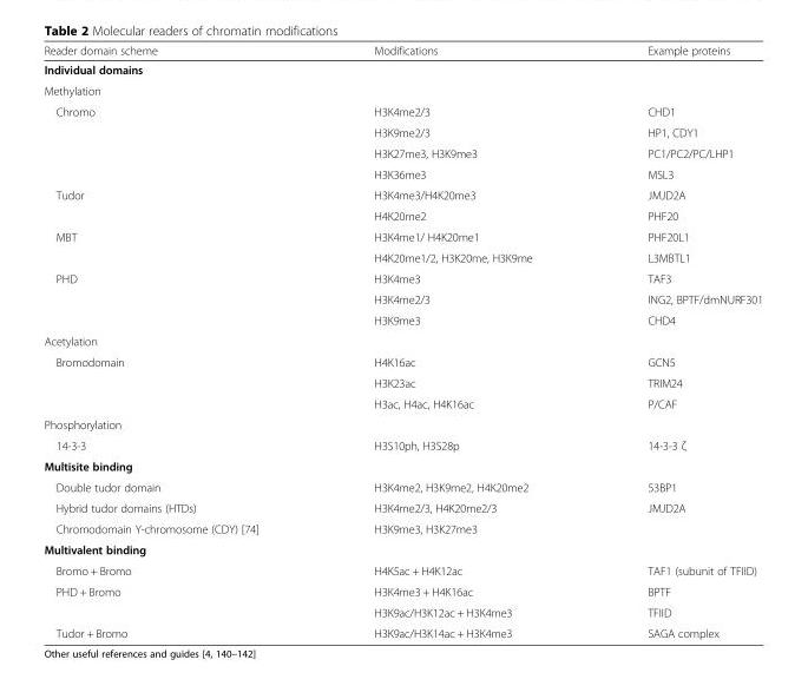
<table><thead><tr><td>Reader domain scheme</td><td>Modifications</td><td>Example proteins</td></tr></thead><tbody><tr><td colspan="3">Individual domains</td></tr><tr><td colspan="3">Methylation</td></tr><tr><td rowspan="4">Chromo</td><td>H3K4me2/3</td><td>CHD1</td></tr><tr><td>H3K9me2/3</td><td>HP1, CDY1</td></tr><tr><td>H3K27me3, H3K9me3</td><td>PC1/PC2/PC/LHP1</td></tr><tr><td>H3K36me3</td><td>MSL3</td></tr><tr><td rowspan="2">Tudor</td><td>H3K4me3/H4K20me3</td><td>JMJD2A</td></tr><tr><td>H4K20me2</td><td>PHF20</td></tr><tr><td rowspan="2">MBT</td><td>H3K4me1/ H4K20me1</td><td>PHF20L1</td></tr><tr><td>H4K20me1/2, H3K20me, H3K9me</td><td>L3MBTL1</td></tr><tr><td rowspan="3">PHD</td><td>H3K4me3</td><td>TAF3</td></tr><tr><td>H3K4me2/3</td><td>ING2, BPTF/dmNURF301</td></tr><tr><td>H3K9me3</td><td>CHD4</td></tr><tr><td colspan="3">Acetylation</td></tr><tr><td rowspan="3">Bromodomain</td><td>H4K16ac</td><td>GCN5</td></tr><tr><td>H3K23ac</td><td>TRIM24</td></tr><tr><td>H3ac, H4ac, H4K16ac</td><td>P/CAF</td></tr><tr><td colspan="3">Phosphorylation</td></tr><tr><td>14-3-3</td><td>H3S10ph, H3S28p</td><td>14-3-3 ζ</td></tr><tr><td colspan="3">Multisite binding</td></tr><tr><td>Double tudor domain</td><td>H3K4me2, H3K9me2, H4K20me2</td><td>53BP1</td></tr><tr><td>Hybrid tudor domains (HTDs)</td><td>H3K4me2/3, H4K20me2/3</td><td>JMJD2A</td></tr><tr><td>Chromodomain Y-chromosome (CDY) [74]</td><td>H3K9me3, H3K27me3</td><td></td></tr><tr><td colspan="3">Multivalent binding</td></tr><tr><td>Bromo + Bromo</td><td>H4K5ac + H4K12ac</td><td>TAF1 (subunit of TFIID)</td></tr><tr><td rowspan="2">PHD + Bromo</td><td>H3K4me3 + H4K16ac</td><td>BPTF</td></tr><tr><td>H3K9ac/H3K12ac + H3K4me3</td><td>TFIID</td></tr><tr><td>Tudor + Bromo</td><td>H3K9ac/H3K14ac + H3K4me3</td><td>SAGA complex</td></tr></tbody></table>